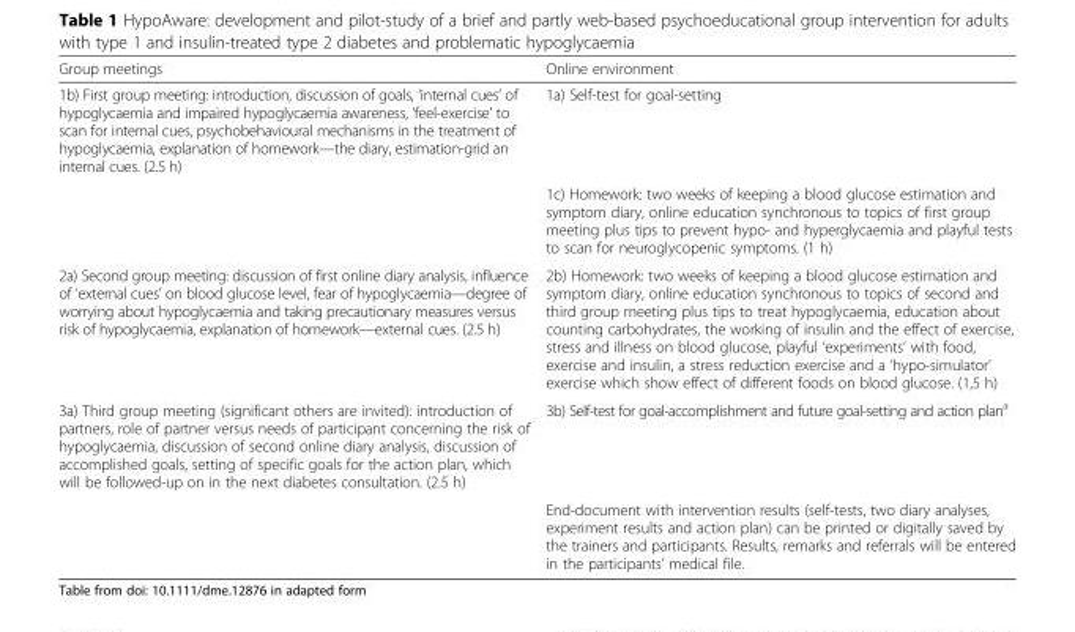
<table><thead><tr><td>Group meetings</td><td>Online environment</td></tr></thead><tbody><tr><td rowspan="2">1b) First group meeting: introduction, discussion of goals, ‘internal cues’ of hypoglycaemia and impaired hypoglycaemia awareness, ‘feel-exercise’ to scan for internal cues, psychobehavioural mechanisms in the treatment of hypoglycaemia, explanation of homework—the diary, estimation-grid an internal cues. (2.5 h)</td><td>1a) Self-test for goal-setting</td></tr><tr><td>1c) Homework: two weeks of keeping a blood glucose estimation and symptom diary, online education synchronous to topics of first group meeting plus tips to prevent hypo- and hyperglycaemia and playful tests to scan for neuroglycopenic symptoms. (1 h)</td></tr><tr><td>2a) Second group meeting: discussion of first online diary analysis, influence of ‘external cues’ on blood glucose level, fear of hypoglycaemia—degree of worrying about hypoglycaemia and taking precautionary measures versus risk of hypoglycaemia, explanation of homework—external cues. (2.5 h)</td><td>2b) Homework: two weeks of keeping a blood glucose estimation and symptom diary, online education synchronous to topics of second and third group meeting plus tips to treat hypoglycaemia, education about counting carbohydrates, the working of insulin and the effect of exercise, stress and illness on blood glucose, playful ‘experiments’ with food, exercise and insulin, a stress reduction exercise and a ‘hypo-simulator’ exercise which show effect of different foods on blood glucose. (1,5 h)</td></tr><tr><td rowspan="2">3a) Third group meeting (significant others are invited): introduction of partners, role of partner versus needs of participant concerning the risk of hypoglycaemia, discussion of second online diary analysis, discussion of accomplished goals, setting of specific goals for the action plan, which will be followed-up on in the next diabetes consultation. (2.5 h)</td><td>3b) Self-test for goal-accomplishment and future goal-setting and action plan<sup>a</sup></td></tr><tr><td>End-document with intervention results (self-tests, two diary analyses, experiment results and action plan) can be printed or digitally saved by the trainers and participants. Results, remarks and referrals will be entered in the participants’ medical file.</td></tr></tbody></table>